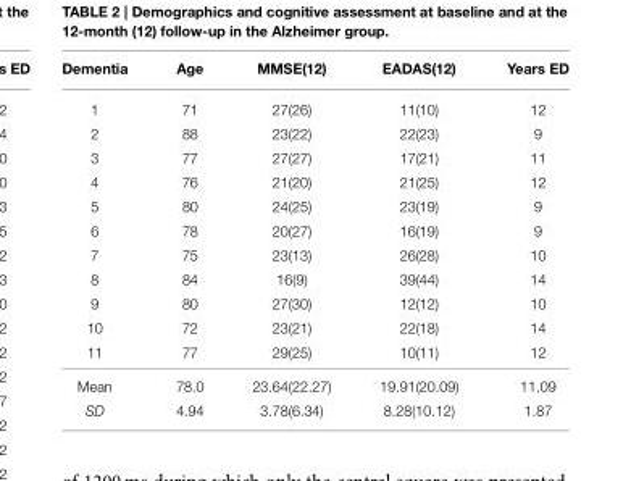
<table><thead><tr><td>Dementia</td><td>Age</td><td>MMSE(12)</td><td>EADAS(12)</td><td>Years ED</td></tr></thead><tbody><tr><td>1</td><td>71</td><td>27(26)</td><td>11(10)</td><td>12</td></tr><tr><td>2</td><td>88</td><td>23(22)</td><td>22(23)</td><td>9</td></tr><tr><td>3</td><td>77</td><td>27(27)</td><td>17(21)</td><td>11</td></tr><tr><td>4</td><td>76</td><td>21(20)</td><td>21(25)</td><td>12</td></tr><tr><td>5</td><td>80</td><td>24(25)</td><td>23(19)</td><td>9</td></tr><tr><td>6</td><td>78</td><td>20(27)</td><td>16(19)</td><td>9</td></tr><tr><td>7</td><td>75</td><td>23(13)</td><td>26(28)</td><td>10</td></tr><tr><td>8</td><td>84</td><td>16(9)</td><td>39(44)</td><td>14</td></tr><tr><td>9</td><td>80</td><td>27(30)</td><td>12(12)</td><td>10</td></tr><tr><td>10</td><td>72</td><td>23(21)</td><td>22(18)</td><td>14</td></tr><tr><td>11</td><td>77</td><td>29(25)</td><td>10(11)</td><td>12</td></tr><tr><td>Mean</td><td>78.0</td><td>23.64(22.27)</td><td>19.91(20.09)</td><td>11.09</td></tr><tr><td>SD</td><td>4.94</td><td>3.78(6.34)</td><td>8.28(10.12)</td><td>1.87</td></tr></tbody></table>